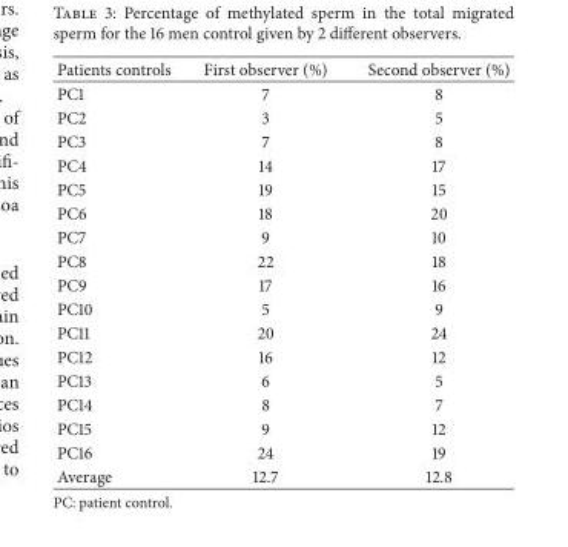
<table><thead><tr><td>Patients controls</td><td>First observer (%)</td><td>Second observer (%)</td></tr></thead><tbody><tr><td>PC1</td><td>7</td><td>8</td></tr><tr><td>PC2</td><td>3</td><td>5</td></tr><tr><td>PC3</td><td>7</td><td>8</td></tr><tr><td>PC4</td><td>14</td><td>17</td></tr><tr><td>PC5</td><td>19</td><td>15</td></tr><tr><td>PC6</td><td>18</td><td>20</td></tr><tr><td>PC7</td><td>9</td><td>10</td></tr><tr><td>PC8</td><td>22</td><td>18</td></tr><tr><td>PC9</td><td>17</td><td>16</td></tr><tr><td>PC10</td><td>5</td><td>9</td></tr><tr><td>PC11</td><td>20</td><td>24</td></tr><tr><td>PC12</td><td>16</td><td>12</td></tr><tr><td>PC13</td><td>6</td><td>5</td></tr><tr><td>PC14</td><td>8</td><td>7</td></tr><tr><td>PC15</td><td>9</td><td>12</td></tr><tr><td>PC16</td><td>24</td><td>19</td></tr><tr><td>Average</td><td>12.7</td><td>12.8</td></tr></tbody></table>